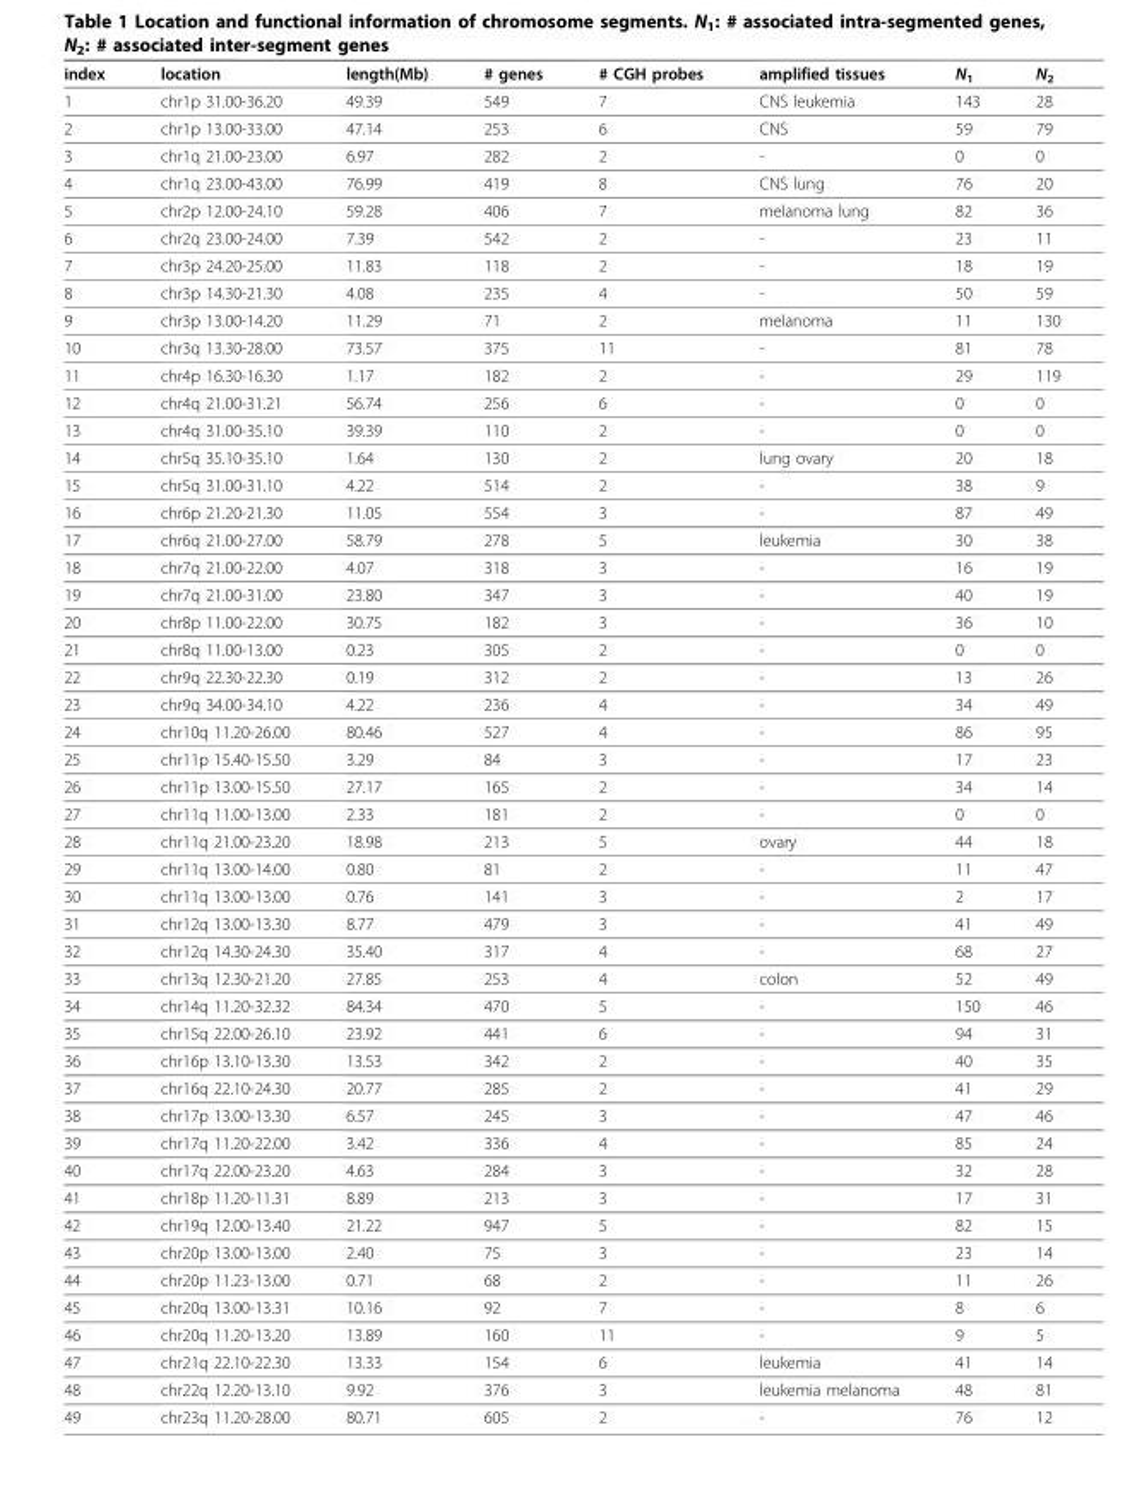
<table><thead><tr><td>index</td><td>location</td><td>length(Mb)</td><td># genes</td><td># CGH probes</td><td>amplified tissues</td><td>N<sub>1</sub></td><td>N<sub>2</sub></td></tr></thead><tbody><tr><td>1</td><td>chr1p 31.00-36.20</td><td>49.39</td><td>549</td><td>7</td><td>CNS leukemia</td><td>143</td><td>28</td></tr><tr><td>2</td><td>chr1p 13.00-33.00</td><td>47.14</td><td>253</td><td>6</td><td>CNS</td><td>59</td><td>79</td></tr><tr><td>3</td><td>chr1q 21.00-23.00</td><td>6.97</td><td>282</td><td>2</td><td>-</td><td>0</td><td>0</td></tr><tr><td>4</td><td>chr1q 23.00-43.00</td><td>76.99</td><td>419</td><td>8</td><td>CNS lung</td><td>76</td><td>20</td></tr><tr><td>5</td><td>chr2p 12.00-24.10</td><td>59.28</td><td>406</td><td>7</td><td>melanoma lung</td><td>82</td><td>36</td></tr><tr><td>6</td><td>chr2q 23.00-24.00</td><td>7.39</td><td>542</td><td>2</td><td>-</td><td>23</td><td>11</td></tr><tr><td>7</td><td>chr3p 24.20-25.00</td><td>11.83</td><td>118</td><td>2</td><td>-</td><td>18</td><td>19</td></tr><tr><td>8</td><td>chr3p 14.30-21.30</td><td>4.08</td><td>235</td><td>4</td><td>-</td><td>50</td><td>59</td></tr><tr><td>9</td><td>chr3p 13.00-14.20</td><td>11.29</td><td>71</td><td>2</td><td>melanoma</td><td>11</td><td>130</td></tr><tr><td>10</td><td>chr3q 13.30-28.00</td><td>73.57</td><td>375</td><td>11</td><td>-</td><td>81</td><td>78</td></tr><tr><td>11</td><td>chr4p 16.30-16.30</td><td>1.17</td><td>182</td><td>2</td><td>-</td><td>29</td><td>119</td></tr><tr><td>12</td><td>chr4q 21.00-31.21</td><td>56.74</td><td>256</td><td>6</td><td>-</td><td>0</td><td>0</td></tr><tr><td>13</td><td>chr4q 31.00-35.10</td><td>39.39</td><td>110</td><td>2</td><td>-</td><td>0</td><td>0</td></tr><tr><td>14</td><td>chr5q 35.10-35.10</td><td>1.64</td><td>130</td><td>2</td><td>lung ovary</td><td>20</td><td>18</td></tr><tr><td>15</td><td>chr5q 31.00-31.10</td><td>4.22</td><td>514</td><td>2</td><td>-</td><td>38</td><td>9</td></tr><tr><td>16</td><td>chr6p 21.20-21.30</td><td>11.05</td><td>554</td><td>3</td><td>-</td><td>87</td><td>49</td></tr><tr><td>17</td><td>chr6q 21.00-27.00</td><td>58.79</td><td>278</td><td>5</td><td>leukemia</td><td>30</td><td>38</td></tr><tr><td>18</td><td>chr7q 21.00-22.00</td><td>4.07</td><td>318</td><td>3</td><td>-</td><td>16</td><td>19</td></tr><tr><td>19</td><td>chr7q 21.00-31.00</td><td>23.80</td><td>347</td><td>3</td><td>-</td><td>40</td><td>19</td></tr><tr><td>20</td><td>chr8p 11.00-22.00</td><td>30.75</td><td>182</td><td>3</td><td>-</td><td>36</td><td>10</td></tr><tr><td>21</td><td>chr8q 11.00-13.00</td><td>0.23</td><td>305</td><td>2</td><td>-</td><td>0</td><td>0</td></tr><tr><td>22</td><td>chr9q 22.30-22.30</td><td>0.19</td><td>312</td><td>2</td><td>-</td><td>13</td><td>26</td></tr><tr><td>23</td><td>chr9q 34.00-34.10</td><td>4.22</td><td>236</td><td>4</td><td>-</td><td>34</td><td>49</td></tr><tr><td>24</td><td>chr10q 11.20-26.00</td><td>80.46</td><td>527</td><td>4</td><td>-</td><td>86</td><td>95</td></tr><tr><td>25</td><td>chr11p 15.40-15.50</td><td>3.29</td><td>84</td><td>3</td><td>-</td><td>17</td><td>23</td></tr><tr><td>26</td><td>chr11p 13.00-15.50</td><td>27.17</td><td>165</td><td>2</td><td>-</td><td>34</td><td>14</td></tr><tr><td>27</td><td>chr11q 11.00-13.00</td><td>2.33</td><td>181</td><td>2</td><td>-</td><td>0</td><td>0</td></tr><tr><td>28</td><td>chr11q 21.00-23.20</td><td>18.98</td><td>213</td><td>5</td><td>ovary</td><td>44</td><td>18</td></tr><tr><td>29</td><td>chr11q 13.00-14.00</td><td>0.80</td><td>81</td><td>2</td><td>-</td><td>11</td><td>47</td></tr><tr><td>30</td><td>chr11q 13.00-13.00</td><td>0.76</td><td>141</td><td>3</td><td>-</td><td>2</td><td>17</td></tr><tr><td>31</td><td>chr12q 13.00-13.30</td><td>8.77</td><td>479</td><td>3</td><td>-</td><td>41</td><td>49</td></tr><tr><td>32</td><td>chr12q 14.30-24.30</td><td>35.40</td><td>317</td><td>4</td><td>-</td><td>68</td><td>27</td></tr><tr><td>33</td><td>chr13q 12.30-21.20</td><td>27.85</td><td>253</td><td>4</td><td>colon</td><td>52</td><td>49</td></tr><tr><td>34</td><td>chr14q 11.20-32.32</td><td>84.34</td><td>470</td><td>5</td><td>-</td><td>150</td><td>46</td></tr><tr><td>35</td><td>chr15q 22.00-26.10</td><td>23.92</td><td>441</td><td>6</td><td>-</td><td>94</td><td>31</td></tr><tr><td>36</td><td>chr16p 13.10-13.30</td><td>13.53</td><td>342</td><td>2</td><td>-</td><td>40</td><td>35</td></tr><tr><td>37</td><td>chr16q 22.10-24.30</td><td>20.77</td><td>285</td><td>2</td><td>-</td><td>41</td><td>29</td></tr><tr><td>38</td><td>chr17p 13.00-13.30</td><td>6.57</td><td>245</td><td>3</td><td>-</td><td>47</td><td>46</td></tr><tr><td>39</td><td>chr17q 11.20-22.00</td><td>3.42</td><td>336</td><td>4</td><td>-</td><td>85</td><td>24</td></tr><tr><td>40</td><td>chr17q 22.00-23.20</td><td>4.63</td><td>284</td><td>3</td><td>-</td><td>32</td><td>28</td></tr><tr><td>41</td><td>chr18p 11.20-11.31</td><td>8.89</td><td>213</td><td>3</td><td>-</td><td>17</td><td>31</td></tr><tr><td>42</td><td>chr19q 12.00-13.40</td><td>21.22</td><td>947</td><td>5</td><td>-</td><td>82</td><td>15</td></tr><tr><td>43</td><td>chr20p 13.00-13.00</td><td>2.40</td><td>75</td><td>3</td><td>-</td><td>23</td><td>14</td></tr><tr><td>44</td><td>chr20p 11.23-13.00</td><td>0.71</td><td>68</td><td>2</td><td>-</td><td>11</td><td>26</td></tr><tr><td>45</td><td>chr20q 13.00-13.31</td><td>10.16</td><td>92</td><td>7</td><td>-</td><td>8</td><td>6</td></tr><tr><td>46</td><td>chr20q 11.20-13.20</td><td>13.89</td><td>160</td><td>11</td><td>-</td><td>9</td><td>5</td></tr><tr><td>47</td><td>chr21q 22.10-22.30</td><td>13.33</td><td>154</td><td>6</td><td>leukemia</td><td>41</td><td>14</td></tr><tr><td>48</td><td>chr22q 12.20-13.10</td><td>9.92</td><td>376</td><td>3</td><td>leukemia melanoma</td><td>48</td><td>81</td></tr><tr><td>49</td><td>chr23q 11.20-28.00</td><td>80.71</td><td>605</td><td>2</td><td>-</td><td>76</td><td>12</td></tr></tbody></table>